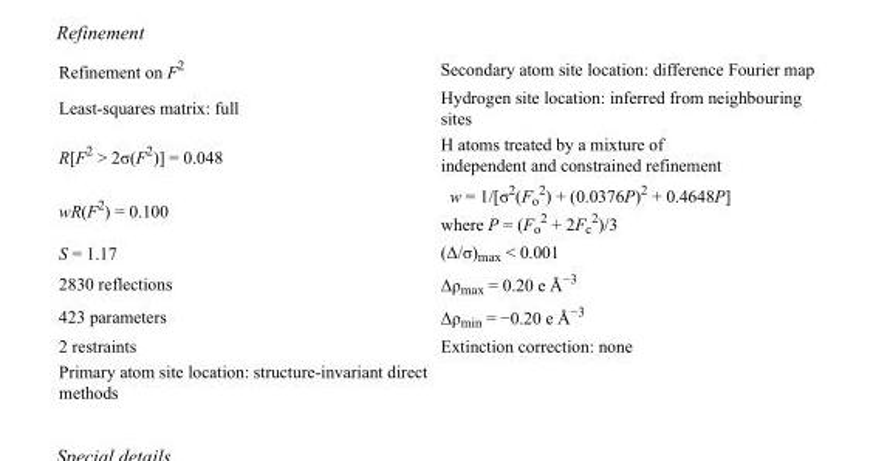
<table><tbody><tr><td>Refinement on F<sup>2</sup></td><td>Secondary atom site location: difference Fourier map</td></tr><tr><td>Least-squares matrix: full</td><td>Hydrogen site location: inferred from neighbouring sites</td></tr><tr><td>R[F<sup>2</sup> &gt; 2σ(F<sup>2</sup>)] = 0.048</td><td>H atoms treated by a mixture of independent and constrained refinement</td></tr><tr><td>wR(F<sup>2</sup>) = 0.100</td><td>w = 1/[σ<sup>2</sup>(F<sub>o</sub> <sup>2</sup>) + (0.0376P)<sup>2</sup> + 0.4648P] where P = (F<sub>o</sub> <sup>2</sup> + 2F<sub>c</sub> <sup>2</sup>)/3</td></tr><tr><td>S = 1.17</td><td>(Δ/σ)<sub>max</sub> &lt; 0.001</td></tr><tr><td>2830 reflections</td><td>Δρ<sub>max</sub> = 0.20 e Å<sup>−3</sup></td></tr><tr><td>423 parameters</td><td>Δρ<sub>min</sub> = −0.20 e Å<sup>−3</sup></td></tr><tr><td>2 restraints</td><td>Extinction correction: none</td></tr><tr><td>Primary atom site location: structure-invariant direct methods</td><td></td></tr></tbody></table>